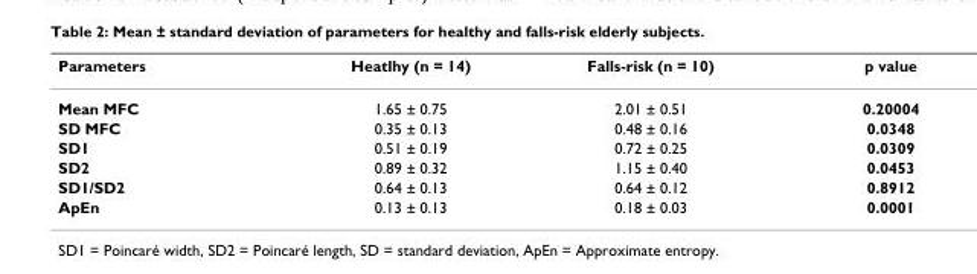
<table><thead><tr><td>Parameters</td><td>Heatlhy (n = 14)</td><td>Falls-risk (n = 10)</td><td>p value</td></tr></thead><tbody><tr><td>Mean MFC</td><td>1.65 ± 0.75</td><td>2.01 ± 0.51</td><td>0.20004</td></tr><tr><td>SD MFC</td><td>0.35 ± 0.13</td><td>0.48 ± 0.16</td><td>0.0348</td></tr><tr><td>SD1</td><td>0.51 ± 0.19</td><td>0.72 ± 0.25</td><td>0.0309</td></tr><tr><td>SD2</td><td>0.89 ± 0.32</td><td>1.15 ± 0.40</td><td>0.0453</td></tr><tr><td>SD1/SD2</td><td>0.64 ± 0.13</td><td>0.64 ± 0.12</td><td>0.8912</td></tr><tr><td>ApEn</td><td>0.13 ± 0.13</td><td>0.18 ± 0.03</td><td>0.0001</td></tr></tbody></table>